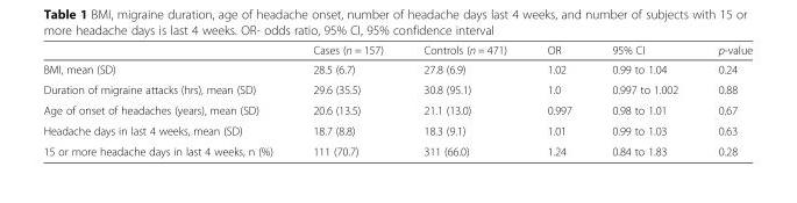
<table><thead><tr><td></td><td>Cases (n = 157)</td><td>Controls (n = 471)</td><td>OR</td><td>95% CI</td><td>p-value</td></tr></thead><tbody><tr><td>BMI, mean (SD)</td><td>28.5 (6.7)</td><td>27.8 (6.9)</td><td>1.02</td><td>0.99 to 1.04</td><td>0.24</td></tr><tr><td>Duration of migraine attacks (hrs), mean (SD)</td><td>29.6 (35.5)</td><td>30.8 (95.1)</td><td>1.0</td><td>0.997 to 1.002</td><td>0.88</td></tr><tr><td>Age of onset of headaches (years), mean (SD)</td><td>20.6 (13.5)</td><td>21.1 (13.0)</td><td>0.997</td><td>0.98 to 1.01</td><td>0.67</td></tr><tr><td>Headache days in last 4 weeks, mean (SD)</td><td>18.7 (8.8)</td><td>18.3 (9.1)</td><td>1.01</td><td>0.99 to 1.03</td><td>0.63</td></tr><tr><td>15 or more headache days in last 4 weeks, n (%)</td><td>111 (70.7)</td><td>311 (66.0)</td><td>1.24</td><td>0.84 to 1.83</td><td>0.28</td></tr></tbody></table>